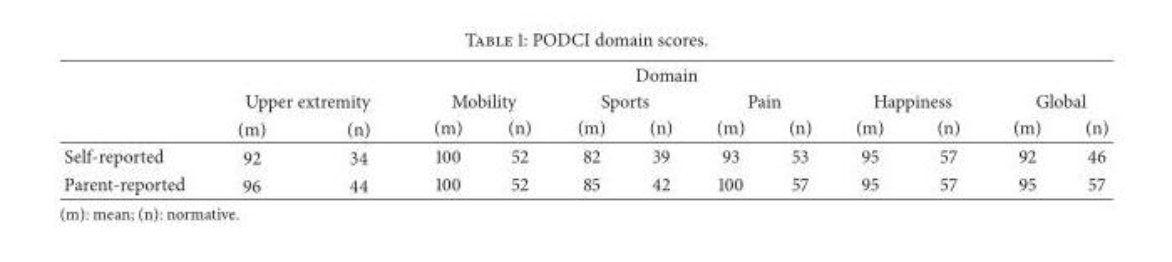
<table><thead><tr><td rowspan="3"></td><td colspan="12">Domain</td></tr><tr><td colspan="2">Upper extremity</td><td colspan="2">Mobility</td><td colspan="2">Sports</td><td colspan="2">Pain</td><td colspan="2">Happiness</td><td colspan="2">Global</td></tr><tr><td>(m)</td><td>(n)</td><td>(m)</td><td>(n)</td><td>(m)</td><td>(n)</td><td>(m)</td><td>(n)</td><td>(m)</td><td>(n)</td><td>(m)</td><td>(n)</td></tr></thead><tbody><tr><td>Self-reported</td><td>92</td><td>34</td><td>100</td><td>52</td><td>82</td><td>39</td><td>93</td><td>53</td><td>95</td><td>57</td><td>92</td><td>46</td></tr><tr><td>Parent-reported</td><td>96</td><td>44</td><td>100</td><td>52</td><td>85</td><td>42</td><td>100</td><td>57</td><td>95</td><td>57</td><td>95</td><td>57</td></tr></tbody></table>